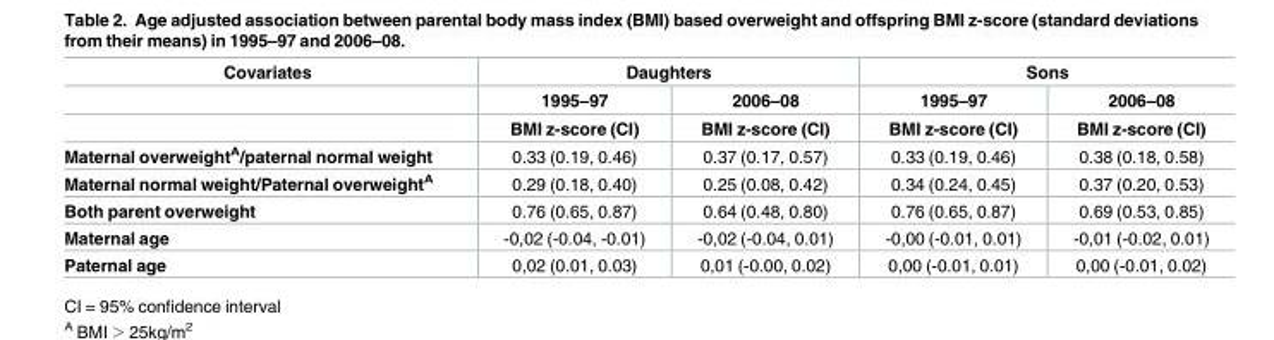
<table><thead><tr><td rowspan="3">Covariates</td><td colspan="2">Daughters</td><td colspan="2">Sons</td></tr><tr><td rowspan="2">1995–97 BMI z-score (CI)</td><td rowspan="2">2006–08 BMI z-score (CI)</td><td rowspan="2">1995–97 BMI z-score (CI)</td><td rowspan="2">2006–08 BMI z-score (CI)</td></tr><tr></tr></thead><tbody><tr><td>Maternal overweight<sup>A</sup>/paternal normal weight</td><td>0.33 (0.19, 0.46)</td><td>0.37 (0.17, 0.57)</td><td>0.33 (0.19, 0.46)</td><td>0.38 (0.18, 0.58)</td></tr><tr><td>Maternal normal weight/Paternal overweight<sup>A</sup></td><td>0.29 (0.18, 0.40)</td><td>0.25 (0.08, 0.42)</td><td>0.34 (0.24, 0.45)</td><td>0.37 (0.20, 0.53)</td></tr><tr><td>Both parent overweight</td><td>0.76 (0.65, 0.87)</td><td>0.64 (0.48, 0.80)</td><td>0.76 (0.65, 0.87)</td><td>0.69 (0.53, 0.85)</td></tr><tr><td>Maternal age</td><td>-0,02 (-0.04, -0.01)</td><td>-0,02 (-0.04, 0.01)</td><td>-0,00 (-0.01, 0.01)</td><td>-0,01 (-0.02, 0.01)</td></tr><tr><td>Paternal age</td><td>0,02 (0.01, 0.03)</td><td>0,01 (-0.00, 0.02)</td><td>0,00 (-0.01, 0.01)</td><td>0,00 (-0.01, 0.02)</td></tr></tbody></table>